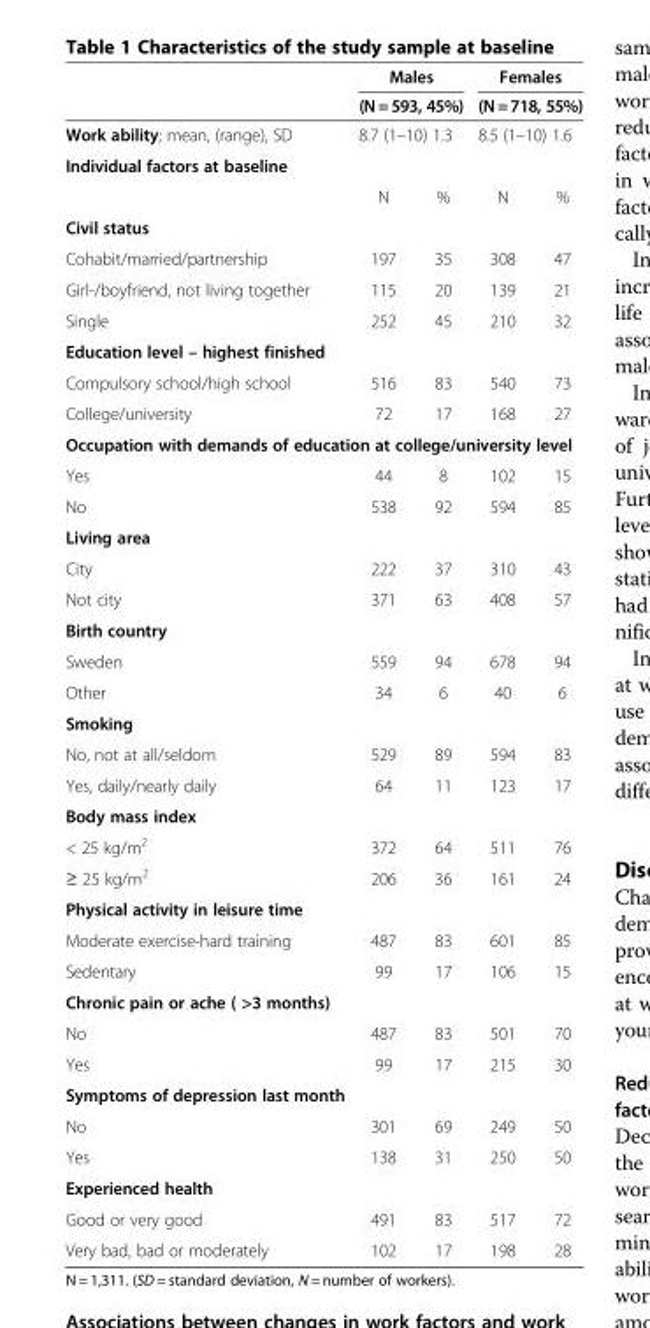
<table><thead><tr><td rowspan="3">Work ability; mean, (range), SD</td><td rowspan="3" colspan="2">Males (N=593, 45%) 8.7 (1–10) 1.3</td><td rowspan="3" colspan="2">Females (N=718, 55%) 8.5 (1–10) 1.6</td></tr><tr></tr><tr></tr><tr><td colspan="5">Individual factors at baseline</td></tr><tr><td></td><td>N</td><td>%</td><td>N</td><td>%</td></tr></thead><tbody><tr><td colspan="5">Civil status</td></tr><tr><td>Cohabit/married/partnership</td><td>197</td><td>35</td><td>308</td><td>47</td></tr><tr><td>Girl-/boyfriend, not living together</td><td>115</td><td>20</td><td>139</td><td>21</td></tr><tr><td>Single</td><td>252</td><td>45</td><td>210</td><td>32</td></tr><tr><td colspan="5">Education level – highest finished</td></tr><tr><td>Compulsory school/high school</td><td>516</td><td>83</td><td>540</td><td>73</td></tr><tr><td>College/university</td><td>72</td><td>17</td><td>168</td><td>27</td></tr><tr><td colspan="5">Occupation with demands of education at college/university level</td></tr><tr><td>Yes</td><td>44</td><td>8</td><td>102</td><td>15</td></tr><tr><td>No</td><td>538</td><td>92</td><td>594</td><td>85</td></tr><tr><td colspan="5">Living area</td></tr><tr><td>City</td><td>222</td><td>37</td><td>310</td><td>43</td></tr><tr><td>Not city</td><td>371</td><td>63</td><td>408</td><td>57</td></tr><tr><td colspan="5">Birth country</td></tr><tr><td>Sweden</td><td>559</td><td>94</td><td>678</td><td>94</td></tr><tr><td>Other</td><td>34</td><td>6</td><td>40</td><td>6</td></tr><tr><td colspan="5">Smoking</td></tr><tr><td>No, not at all/seldom</td><td>529</td><td>89</td><td>594</td><td>83</td></tr><tr><td>Yes, daily/nearly daily</td><td>64</td><td>11</td><td>123</td><td>17</td></tr><tr><td colspan="5">Body mass index</td></tr><tr><td>&lt; 25 kg/m<sup>2</sup></td><td>372</td><td>64</td><td>511</td><td>76</td></tr><tr><td>≥ 25 kg/m<sup>2</sup></td><td>206</td><td>36</td><td>161</td><td>24</td></tr><tr><td colspan="5">Physical activity in leisure time</td></tr><tr><td>Moderate exercise-hard training</td><td>487</td><td>83</td><td>601</td><td>85</td></tr><tr><td>Sedentary</td><td>99</td><td>17</td><td>106</td><td>15</td></tr><tr><td colspan="5">Chronic pain or ache ( &gt;3 months)</td></tr><tr><td>No</td><td>487</td><td>83</td><td>501</td><td>70</td></tr><tr><td>Yes</td><td>99</td><td>17</td><td>215</td><td>30</td></tr><tr><td colspan="5">Symptoms of depression last month</td></tr><tr><td>No</td><td>301</td><td>69</td><td>249</td><td>50</td></tr><tr><td>Yes</td><td>138</td><td>31</td><td>250</td><td>50</td></tr><tr><td colspan="5">Experienced health</td></tr><tr><td>Good or very good</td><td>491</td><td>83</td><td>517</td><td>72</td></tr><tr><td>Very bad, bad or moderately</td><td>102</td><td>17</td><td>198</td><td>28</td></tr></tbody></table>